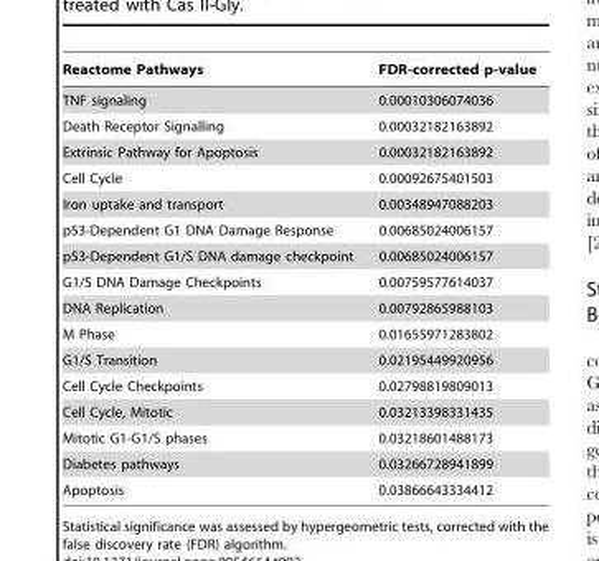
<table><thead><tr><td>Reactome Pathways</td><td>FDR-corrected p-value</td></tr></thead><tbody><tr><td>TNF signaling</td><td>0.00010306074036</td></tr><tr><td>Death Receptor Signalling</td><td>0.00032182163892</td></tr><tr><td>Extrinsic Pathway for Apoptosis</td><td>0.00032182163892</td></tr><tr><td>Cell Cycle</td><td>0.00092675401503</td></tr><tr><td>Iron uptake and transport</td><td>0.00348947088203</td></tr><tr><td>p53-Dependent G1 DNA Damage Response</td><td>0.00685024006157</td></tr><tr><td>p53-Dependent G1/S DNA damage checkpoint</td><td>0.00685024006157</td></tr><tr><td>G1/S DNA Damage Checkpoints</td><td>0.00759577614037</td></tr><tr><td>DNA Replication</td><td>0.00792865988103</td></tr><tr><td>M Phase</td><td>0.01655971283802</td></tr><tr><td>G1/S Transition</td><td>0.02195449920956</td></tr><tr><td>Cell Cycle Checkpoints</td><td>0.02798819809013</td></tr><tr><td>Cell Cycle, Mitotic</td><td>0.03213398331435</td></tr><tr><td>Mitotic G1-G1/S phases</td><td>0.03218601488173</td></tr><tr><td>Diabetes pathways</td><td>0.03266728941899</td></tr><tr><td>Apoptosis</td><td>0.03866643334412</td></tr></tbody></table>